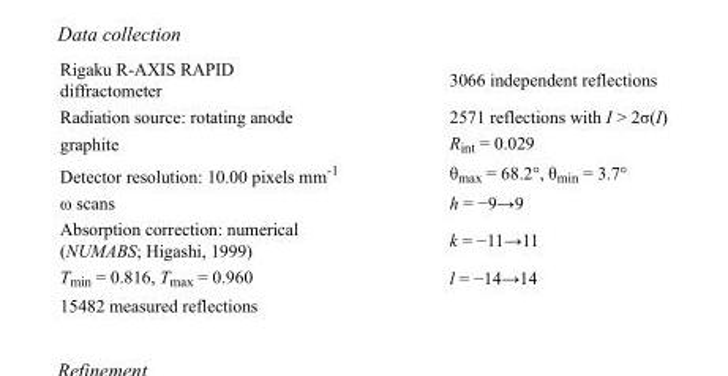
<table><tbody><tr><td>Rigaku R-AXIS RAPID diffractometer</td><td>3066 independent reflections</td></tr><tr><td>Radiation source: rotating anode</td><td>2571 reflections with I &gt; 2σ(I)</td></tr><tr><td>graphite</td><td>R<sub>int</sub> = 0.029</td></tr><tr><td>Detector resolution: 10.00 pixels mm<sup>-1</sup></td><td>θ<sub>max</sub> = 68.2°, θ<sub>min</sub> = 3.7°</td></tr><tr><td>ω scans</td><td>h = −9→9</td></tr><tr><td>Absorption correction: numerical (NUMABS; Higashi, 1999)</td><td>k = −11→11</td></tr><tr><td>T<sub>min</sub> = 0.816, T<sub>max</sub> = 0.960</td><td>l = −14→14</td></tr><tr><td>15482 measured reflections</td><td></td></tr></tbody></table>